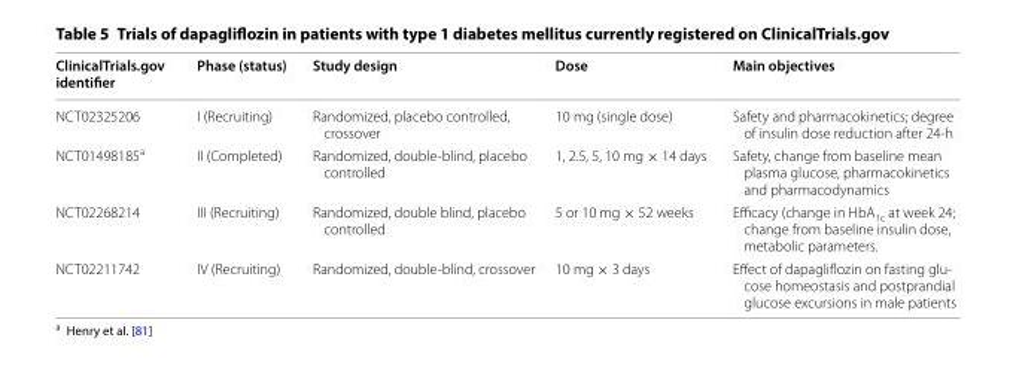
<table><thead><tr><td>ClinicalTrials.gov identifier</td><td>Phase (status)</td><td>Study design</td><td>Dose</td><td>Main objectives</td></tr></thead><tbody><tr><td>NCT02325206</td><td>I (Recruiting)</td><td>Randomized, placebo controlled, crossover</td><td>10 mg (single dose)</td><td>Safety and pharmacokinetics; degree of insulin dose reduction after 24-h</td></tr><tr><td>NCT01498185<sup>a</sup></td><td>II (Completed)</td><td>Randomized, double-blind, placebo controlled</td><td>1, 2.5, 5, 10 mg × 14 days</td><td>Safety, change from baseline mean plasma glucose, pharmacokinetics and pharmacodynamics</td></tr><tr><td>NCT02268214</td><td>III (Recruiting)</td><td>Randomized, double blind, placebo controlled</td><td>5 or 10 mg × 52 weeks</td><td>Efficacy (change in HbA<sub>1c</sub> at week 24; change from baseline insulin dose, metabolic parameters.</td></tr><tr><td>NCT02211742</td><td>IV (Recruiting)</td><td>Randomized, double-blind, crossover</td><td>10 mg × 3 days</td><td>Effect of dapagliflozin on fasting glu- cose homeostasis and postprandial glucose excursions in male patients</td></tr></tbody></table>